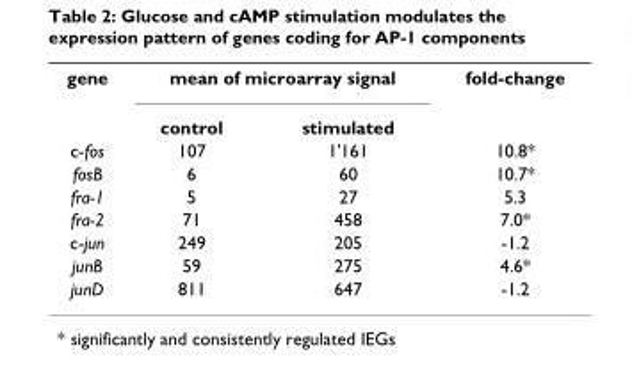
<table><tbody><tr><td rowspan="2">gene</td><td colspan="2">mean of microarray signal</td><td>fold-change</td></tr><tr><td>control</td><td>stimulated</td><td></td></tr><tr><td>c-fos</td><td>107</td><td>1&#x27;161</td><td>10.8*</td></tr><tr><td>fosB</td><td>6</td><td>60</td><td>10.7*</td></tr><tr><td>fra-1</td><td>5</td><td>27</td><td>5.3</td></tr><tr><td>fra-2</td><td>71</td><td>458</td><td>7.0*</td></tr><tr><td>c-jun</td><td>249</td><td>205</td><td>-1.2</td></tr><tr><td>junB</td><td>59</td><td>275</td><td>4.6*</td></tr><tr><td>junD</td><td>811</td><td>647</td><td>-1.2</td></tr></tbody></table>